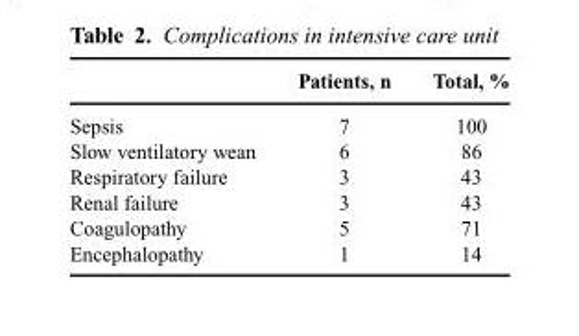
<table><thead><tr><td></td><td>Patients, n</td><td>Total, %</td></tr></thead><tbody><tr><td>Sepsis</td><td>7</td><td>100</td></tr><tr><td>Slow ventilatory wean</td><td>6</td><td>86</td></tr><tr><td>Respiratory failure</td><td>3</td><td>43</td></tr><tr><td>Renal failure</td><td>3</td><td>43</td></tr><tr><td>Coagulopathy</td><td>5</td><td>71</td></tr><tr><td>Encephalopathy</td><td>1</td><td>14</td></tr></tbody></table>